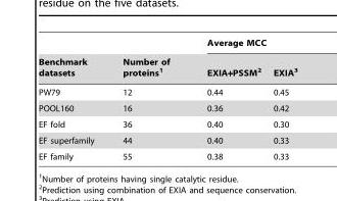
<table><thead><tr><td rowspan="2">Benchmark datasets</td><td rowspan="2">Number of proteins<sup>1</sup></td><td colspan="2">Average MCC</td></tr><tr><td>EXIA+PSSM<sup>2</sup></td><td>EXIA<sup>3</sup></td></tr></thead><tbody><tr><td>PW79</td><td>12</td><td>0.44</td><td>0.45</td></tr><tr><td>POOL160</td><td>16</td><td>0.36</td><td>0.42</td></tr><tr><td>EF fold</td><td>36</td><td>0.40</td><td>0.30</td></tr><tr><td>EF superfamily</td><td>44</td><td>0.40</td><td>0.33</td></tr><tr><td>EF family</td><td>55</td><td>0.38</td><td>0.33</td></tr></tbody></table>